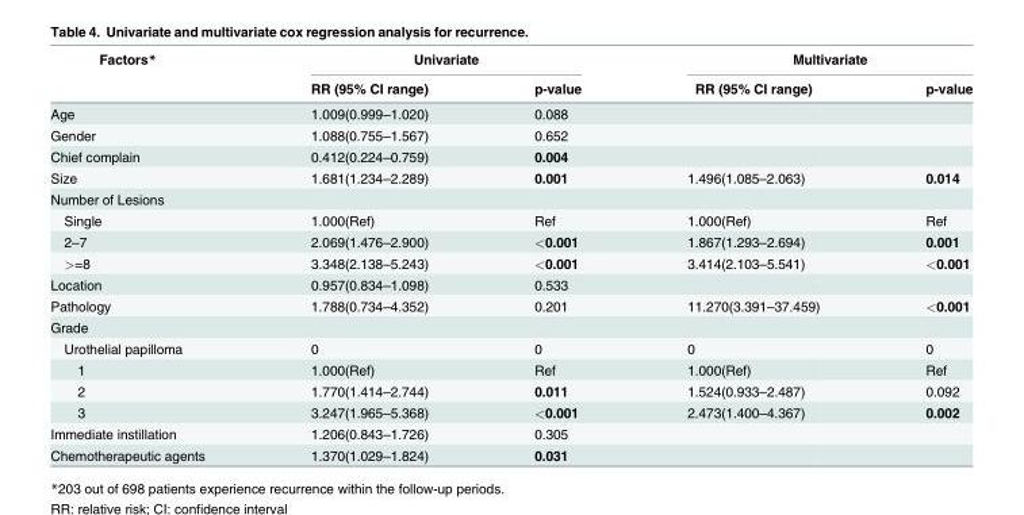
<table><thead><tr><td rowspan="2">Factors*</td><td colspan="2">Univariate</td><td colspan="2">Multivariate</td></tr><tr><td>RR (95% CI range)</td><td>p-value</td><td>RR (95% CI range)</td><td>p-value</td></tr></thead><tbody><tr><td>Age</td><td>1.009(0.999–1.020)</td><td>0.088</td><td></td><td></td></tr><tr><td>Gender</td><td>1.088(0.755–1.567)</td><td>0.652</td><td></td><td></td></tr><tr><td>Chief complain</td><td>0.412(0.224–0.759)</td><td>0.004</td><td></td><td></td></tr><tr><td>Size</td><td>1.681(1.234–2.289)</td><td>0.001</td><td>1.496(1.085–2.063)</td><td>0.014</td></tr><tr><td colspan="5">Number of Lesions</td></tr><tr><td>Single</td><td>1.000(Ref)</td><td>Ref</td><td>1.000(Ref)</td><td>Ref</td></tr><tr><td>2–7</td><td>2.069(1.476–2.900)</td><td>&lt;0.001</td><td>1.867(1.293–2.694)</td><td>0.001</td></tr><tr><td>&gt;=8</td><td>3.348(2.138–5.243)</td><td>&lt;0.001</td><td>3.414(2.103–5.541)</td><td>&lt;0.001</td></tr><tr><td>Location</td><td>0.957(0.834–1.098)</td><td>0.533</td><td></td><td></td></tr><tr><td>Pathology</td><td>1.788(0.734–4.352)</td><td>0.201</td><td>11.270(3.391–37.459)</td><td>&lt;0.001</td></tr><tr><td colspan="5">Grade</td></tr><tr><td>Urothelial papilloma</td><td>0</td><td>0</td><td>0</td><td>0</td></tr><tr><td>1</td><td>1.000(Ref)</td><td>Ref</td><td>1.000(Ref)</td><td>Ref</td></tr><tr><td>2</td><td>1.770(1.414–2.744)</td><td>0.011</td><td>1.524(0.933–2.487)</td><td>0.092</td></tr><tr><td>3</td><td>3.247(1.965–5.368)</td><td>&lt;0.001</td><td>2.473(1.400–4.367)</td><td>0.002</td></tr><tr><td>Immediate instillation</td><td>1.206(0.843–1.726)</td><td>0.305</td><td></td><td></td></tr><tr><td>Chemotherapeutic agents</td><td>1.370(1.029–1.824)</td><td>0.031</td><td></td><td></td></tr></tbody></table>